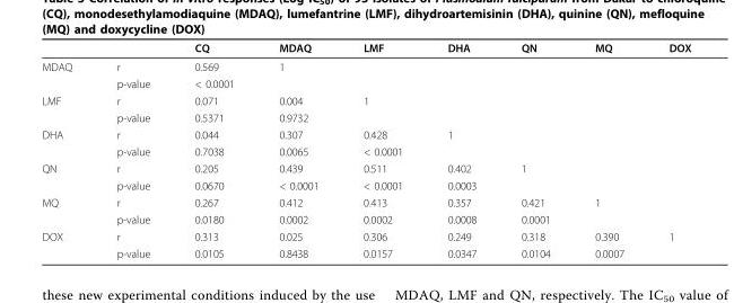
<table><thead><tr><td></td><td></td><td>CQ</td><td>MDAQ</td><td>LMF</td><td>DHA</td><td>QN</td><td>MQ</td><td>DOX</td></tr></thead><tbody><tr><td rowspan="2">MDAQ</td><td>r</td><td>0.569</td><td>1</td><td></td><td></td><td></td><td></td><td></td></tr><tr><td>p-value</td><td>&lt; 0.0001</td><td></td><td></td><td></td><td></td><td></td><td></td></tr><tr><td rowspan="2">LMF</td><td>r</td><td>0.071</td><td>0.004</td><td>1</td><td></td><td></td><td></td><td></td></tr><tr><td>p-value</td><td>0.5371</td><td>0.9732</td><td></td><td></td><td></td><td></td><td></td></tr><tr><td rowspan="2">DHA</td><td>r</td><td>0.044</td><td>0.307</td><td>0.428</td><td>1</td><td></td><td></td><td></td></tr><tr><td>p-value</td><td>0.7038</td><td>0.0065</td><td>&lt; 0.0001</td><td></td><td></td><td></td><td></td></tr><tr><td rowspan="2">QN</td><td>r</td><td>0.205</td><td>0.439</td><td>0.511</td><td>0.402</td><td>1</td><td></td><td></td></tr><tr><td>p-value</td><td>0.0670</td><td>&lt; 0.0001</td><td>&lt; 0.0001</td><td>0.0003</td><td></td><td></td><td></td></tr><tr><td rowspan="2">MQ</td><td>r</td><td>0.267</td><td>0.412</td><td>0.413</td><td>0.357</td><td>0.421</td><td>1</td><td></td></tr><tr><td>p-value</td><td>0.0180</td><td>0.0002</td><td>0.0002</td><td>0.0008</td><td>0.0001</td><td></td><td></td></tr><tr><td rowspan="2">DOX</td><td>r</td><td>0.313</td><td>0.025</td><td>0.306</td><td>0.249</td><td>0.318</td><td>0.390</td><td>1</td></tr><tr><td>p-value</td><td>0.0105</td><td>0.8438</td><td>0.0157</td><td>0.0347</td><td>0.0104</td><td>0.0007</td><td></td></tr></tbody></table>